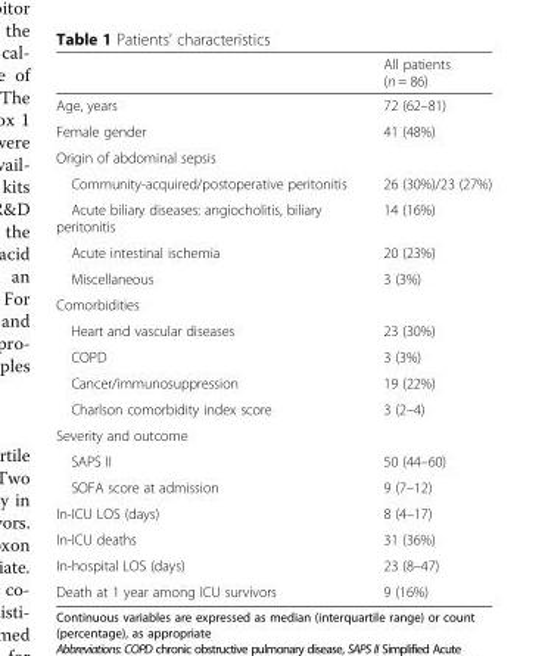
<table><thead><tr><td></td><td>All patients (n = 86)</td></tr></thead><tbody><tr><td>Age, years</td><td>72 (62–81)</td></tr><tr><td>Female gender</td><td>41 (48%)</td></tr><tr><td colspan="2">Origin of abdominal sepsis</td></tr><tr><td>Community-acquired/postoperative peritonitis</td><td>26 (30%)/23 (27%)</td></tr><tr><td>Acute biliary diseases: angiocholitis, biliary peritonitis</td><td>14 (16%)</td></tr><tr><td>Acute intestinal ischemia</td><td>20 (23%)</td></tr><tr><td>Miscellaneous</td><td>3 (3%)</td></tr><tr><td colspan="2">Comorbidities</td></tr><tr><td>Heart and vascular diseases</td><td>23 (30%)</td></tr><tr><td>COPD</td><td>3 (3%)</td></tr><tr><td>Cancer/immunosuppression</td><td>19 (22%)</td></tr><tr><td>Charlson comorbidity index score</td><td>3 (2–4)</td></tr><tr><td colspan="2">Severity and outcome</td></tr><tr><td>SAPS II</td><td>50 (44–60)</td></tr><tr><td>SOFA score at admission</td><td>9 (7–12)</td></tr><tr><td>In-ICU LOS (days)</td><td>8 (4–17)</td></tr><tr><td>In-ICU deaths</td><td>31 (36%)</td></tr><tr><td>In-hospital LOS (days)</td><td>23 (8–47)</td></tr><tr><td>Death at 1 year among ICU survivors</td><td>9 (16%)</td></tr></tbody></table>